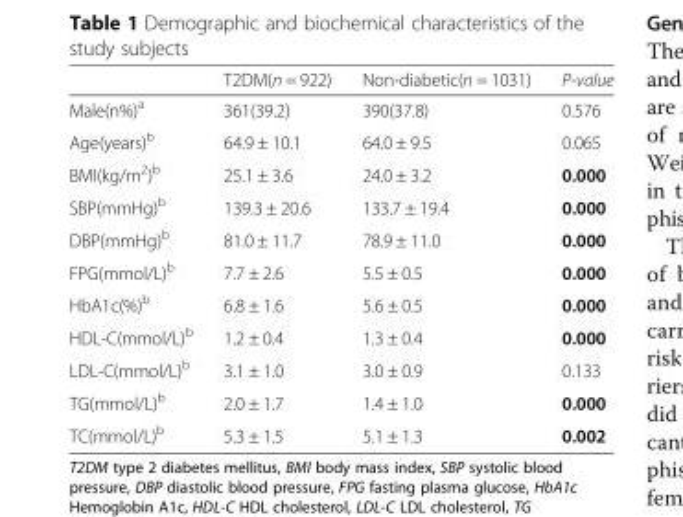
<table><thead><tr><td></td><td>T2DM(n = 922)</td><td>Non-diabetic(n = 1031)</td><td>P-value</td></tr></thead><tbody><tr><td>Male(n%)<sup>a</sup></td><td>361(39.2)</td><td>390(37.8)</td><td>0.576</td></tr><tr><td>Age(years)<sup>b</sup></td><td>64.9 ± 10.1</td><td>64.0 ± 9.5</td><td>0.065</td></tr><tr><td>BMI(kg/m<sup>2</sup>)<sup>b</sup></td><td>25.1 ± 3.6</td><td>24.0 ± 3.2</td><td>0.000</td></tr><tr><td>SBP(mmHg)<sup>b</sup></td><td>139.3 ± 20.6</td><td>133.7 ± 19.4</td><td>0.000</td></tr><tr><td>DBP(mmHg)<sup>b</sup></td><td>81.0 ± 11.7</td><td>78.9 ± 11.0</td><td>0.000</td></tr><tr><td>FPG(mmol/L)<sup>b</sup></td><td>7.7 ± 2.6</td><td>5.5 ± 0.5</td><td>0.000</td></tr><tr><td>HbA1c(%)<sup>b</sup></td><td>6.8 ± 1.6</td><td>5.6 ± 0.5</td><td>0.000</td></tr><tr><td>HDL-C(mmol/L)<sup>b</sup></td><td>1.2 ± 0.4</td><td>1.3 ± 0.4</td><td>0.000</td></tr><tr><td>LDL-C(mmol/L)<sup>b</sup></td><td>3.1 ± 1.0</td><td>3.0 ± 0.9</td><td>0.133</td></tr><tr><td>TG(mmol/L)<sup>b</sup></td><td>2.0 ± 1.7</td><td>1.4 ± 1.0</td><td>0.000</td></tr><tr><td>TC(mmol/L)<sup>b</sup></td><td>5.3 ± 1.5</td><td>5.1 ± 1.3</td><td>0.002</td></tr></tbody></table>